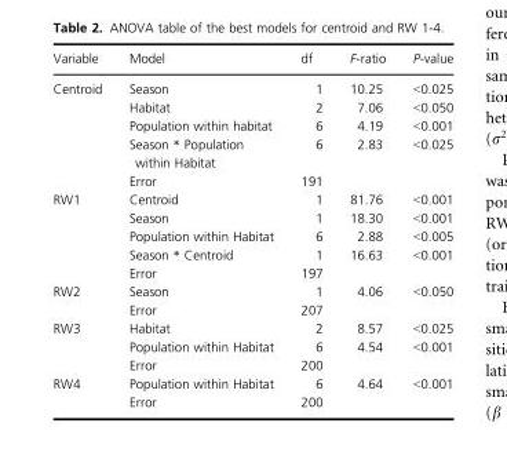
<table><thead><tr><td>Variable</td><td>Model</td><td>df</td><td>F-ratio</td><td>P-value</td></tr></thead><tbody><tr><td rowspan="5">Centroid</td><td>Season</td><td>1</td><td>10.25</td><td>&lt;0.025</td></tr><tr><td>Habitat</td><td>2</td><td>7.06</td><td>&lt;0.050</td></tr><tr><td>Population within habitat</td><td>6</td><td>4.19</td><td>&lt;0.001</td></tr><tr><td>Season * Population within Habitat</td><td>6</td><td>2.83</td><td>&lt;0.025</td></tr><tr><td>Error</td><td>191</td><td></td><td></td></tr><tr><td rowspan="5">RW1</td><td>Centroid</td><td>1</td><td>81.76</td><td>&lt;0.001</td></tr><tr><td>Season</td><td>1</td><td>18.30</td><td>&lt;0.001</td></tr><tr><td>Population within Habitat</td><td>6</td><td>2.88</td><td>&lt;0.005</td></tr><tr><td>Season * Centroid</td><td>1</td><td>16.63</td><td>&lt;0.001</td></tr><tr><td>Error</td><td>197</td><td></td><td></td></tr><tr><td rowspan="2">RW2</td><td>Season</td><td>1</td><td>4.06</td><td>&lt;0.050</td></tr><tr><td>Error</td><td>207</td><td></td><td></td></tr><tr><td rowspan="3">RW3</td><td>Habitat</td><td>2</td><td>8.57</td><td>&lt;0.025</td></tr><tr><td>Population within Habitat</td><td>6</td><td>4.54</td><td>&lt;0.001</td></tr><tr><td>Error</td><td>200</td><td></td><td></td></tr><tr><td rowspan="2">RW4</td><td>Population within Habitat</td><td>6</td><td>4.64</td><td>&lt;0.001</td></tr><tr><td>Error</td><td>200</td><td></td><td></td></tr></tbody></table>